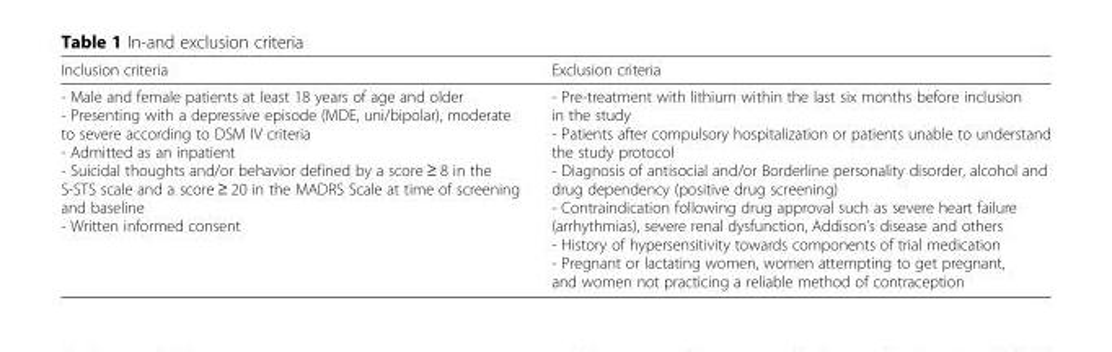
<table><thead><tr><td>Inclusion criteria</td><td>Exclusion criteria</td></tr></thead><tbody><tr><td>- Male and female patients at least 18 years of age and older - Presenting with a depressive episode (MDE, uni/bipolar), moderate to severe according to DSM IV criteria - Admitted as an inpatient - Suicidal thoughts and/or behavior defined by a score ≥ 8 in the S-STS scale and a score ≥ 20 in the MADRS Scale at time of screening and baseline - Written informed consent</td><td>- Pre-treatment with lithium within the last six months before inclusion in the study - Patients after compulsory hospitalization or patients unable to understand the study protocol - Diagnosis of antisocial and/or Borderline personality disorder, alcohol and drug dependency (positive drug screening) - Contraindication following drug approval such as severe heart failure (arrhythmias), severe renal dysfunction, Addison’s disease and others - History of hypersensitivity towards components of trial medication - Pregnant or lactating women, women attempting to get pregnant, and women not practicing a reliable method of contraception</td></tr></tbody></table>